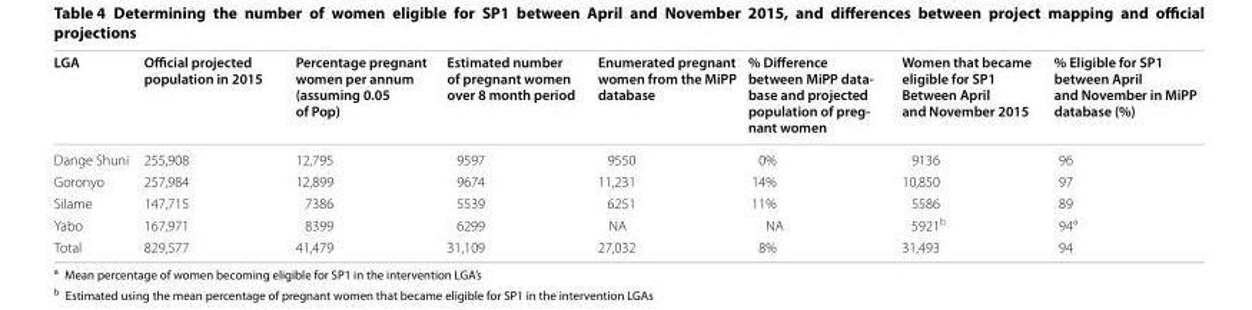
<table><thead><tr><td>LGA</td><td>Official projected population in 2015</td><td>Percentage pregnant women per annum (assuming 0.05 of Pop)</td><td>Estimated number of pregnant women over 8 month period</td><td>Enumerated pregnant women from the MiPP database</td><td>% Difference between MiPP data‑ base and projected population of preg‑ nant women</td><td>Women that became eligible for SP1 Between April and November 2015</td><td>% Eligible for SP1 between April and November in MiPP database (%)</td></tr></thead><tbody><tr><td>Dange Shuni</td><td>255,908</td><td>12,795</td><td>9597</td><td>9550</td><td>0%</td><td>9136</td><td>96</td></tr><tr><td>Goronyo</td><td>257,984</td><td>12,899</td><td>9674</td><td>11,231</td><td>14%</td><td>10,850</td><td>97</td></tr><tr><td>Silame</td><td>147,715</td><td>7386</td><td>5539</td><td>6251</td><td>11%</td><td>5586</td><td>89</td></tr><tr><td>Yabo</td><td>167,971</td><td>8399</td><td>6299</td><td>NA</td><td>NA</td><td>5921<sup>b</sup></td><td>94<sup>a</sup></td></tr><tr><td>Total</td><td>829,577</td><td>41,479</td><td>31,109</td><td>27,032</td><td>8%</td><td>31,493</td><td>94</td></tr></tbody></table>